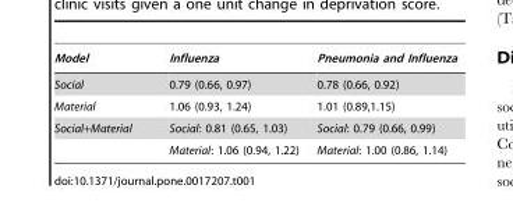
<table><thead><tr><td>Model</td><td>Influenza</td><td>Pneumonia and Influenza</td></tr></thead><tbody><tr><td>Social</td><td>0.79 (0.66, 0.97)</td><td>0.78 (0.66, 0.92)</td></tr><tr><td>Material</td><td>1.06 (0.93, 1.24)</td><td>1.01 (0.89,1.15)</td></tr><tr><td rowspan="2">Social+Material</td><td>Social: 0.81 (0.65, 1.03)</td><td>Social: 0.79 (0.66, 0.99)</td></tr><tr><td>Material: 1.06 (0.94, 1.22)</td><td>Material: 1.00 (0.86, 1.14)</td></tr></tbody></table>